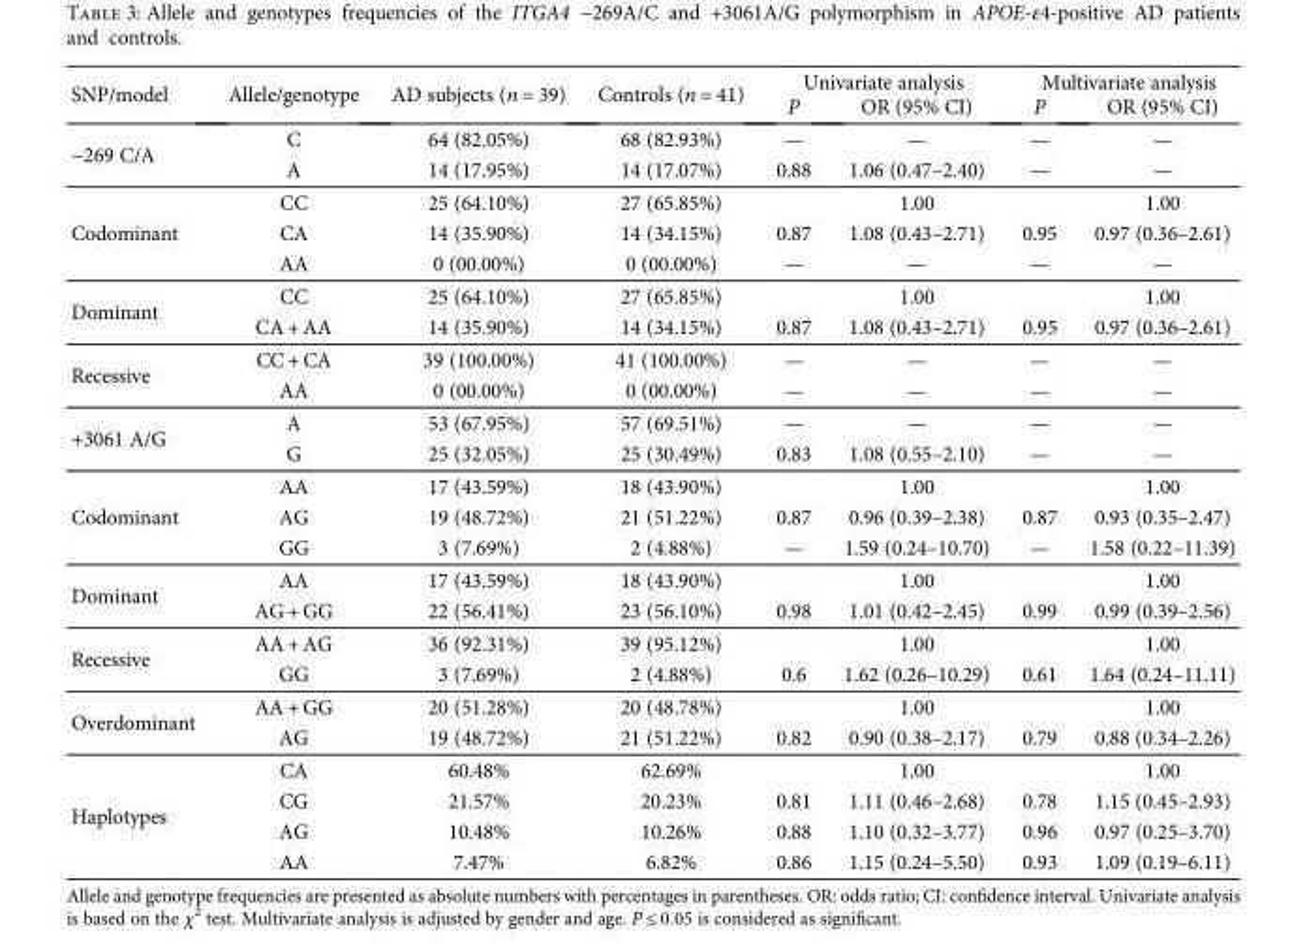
<table><thead><tr><td rowspan="2">SNP/model</td><td rowspan="2">Allele/genotype</td><td rowspan="2">AD subjects (n = 39)</td><td rowspan="2">Controls (n = 41)</td><td colspan="2">Univariate analysis</td><td colspan="2">Multivariate analysis</td></tr><tr><td>P</td><td>OR (95% CI)</td><td>P</td><td>OR (95% CI)</td></tr></thead><tbody><tr><td rowspan="2">−269 C/A</td><td>C</td><td>64 (82.05%)</td><td>68 (82.93%)</td><td>—</td><td>—</td><td>—</td><td>—</td></tr><tr><td>A</td><td>14 (17.95%)</td><td>14 (17.07%)</td><td>0.88</td><td>1.06 (0.47–2.40)</td><td>—</td><td>—</td></tr><tr><td rowspan="3">Codominant</td><td>CC</td><td>25 (64.10%)</td><td>27 (65.85%)</td><td></td><td>1.00</td><td></td><td>1.00</td></tr><tr><td>CA</td><td>14 (35.90%)</td><td>14 (34.15%)</td><td>0.87</td><td>1.08 (0.43–2.71)</td><td>0.95</td><td>0.97 (0.36–2.61)</td></tr><tr><td>AA</td><td>0 (00.00%)</td><td>0 (00.00%)</td><td>—</td><td>—</td><td>—</td><td>—</td></tr><tr><td rowspan="2">Dominant</td><td>CC</td><td>25 (64.10%)</td><td>27 (65.85%)</td><td></td><td>1.00</td><td></td><td>1.00</td></tr><tr><td>CA + AA</td><td>14 (35.90%)</td><td>14 (34.15%)</td><td>0.87</td><td>1.08 (0.43–2.71)</td><td>0.95</td><td>0.97 (0.36–2.61)</td></tr><tr><td rowspan="2">Recessive</td><td>CC + CA</td><td>39 (100.00%)</td><td>41 (100.00%)</td><td>—</td><td>—</td><td>—</td><td>—</td></tr><tr><td>AA</td><td>0 (00.00%)</td><td>0 (00.00%)</td><td>—</td><td>—</td><td>—</td><td>—</td></tr><tr><td rowspan="2">+3061 A/G</td><td>A</td><td>53 (67.95%)</td><td>57 (69.51%)</td><td>—</td><td>—</td><td>—</td><td>—</td></tr><tr><td>G</td><td>25 (32.05%)</td><td>25 (30.49%)</td><td>0.83</td><td>1.08 (0.55–2.10)</td><td>—</td><td>—</td></tr><tr><td rowspan="3">Codominant</td><td>AA</td><td>17 (43.59%)</td><td>18 (43.90%)</td><td></td><td>1.00</td><td></td><td>1.00</td></tr><tr><td>AG</td><td>19 (48.72%)</td><td>21 (51.22%)</td><td>0.87</td><td>0.96 (0.39–2.38)</td><td>0.87</td><td>0.93 (0.35–2.47)</td></tr><tr><td>GG</td><td>3 (7.69%)</td><td>2 (4.88%)</td><td>—</td><td>1.59 (0.24–10.70)</td><td>—</td><td>1.58 (0.22–11.39)</td></tr><tr><td rowspan="2">Dominant</td><td>AA</td><td>17 (43.59%)</td><td>18 (43.90%)</td><td></td><td>1.00</td><td></td><td>1.00</td></tr><tr><td>AG + GG</td><td>22 (56.41%)</td><td>23 (56.10%)</td><td>0.98</td><td>1.01 (0.42–2.45)</td><td>0.99</td><td>0.99 (0.39–2.56)</td></tr><tr><td rowspan="2">Recessive</td><td>AA + AG</td><td>36 (92.31%)</td><td>39 (95.12%)</td><td></td><td>1.00</td><td></td><td>1.00</td></tr><tr><td>GG</td><td>3 (7.69%)</td><td>2 (4.88%)</td><td>0.6</td><td>1.62 (0.26–10.29)</td><td>0.61</td><td>1.64 (0.24–11.11)</td></tr><tr><td rowspan="2">Overdominant</td><td>AA + GG</td><td>20 (51.28%)</td><td>20 (48.78%)</td><td></td><td>1.00</td><td></td><td>1.00</td></tr><tr><td>AG</td><td>19 (48.72%)</td><td>21 (51.22%)</td><td>0.82</td><td>0.90 (0.38–2.17)</td><td>0.79</td><td>0.88 (0.34–2.26)</td></tr><tr><td rowspan="4">Haplotypes</td><td>CA</td><td>60.48%</td><td>62.69%</td><td></td><td>1.00</td><td></td><td>1.00</td></tr><tr><td>CG</td><td>21.57%</td><td>20.23%</td><td>0.81</td><td>1.11 (0.46–2.68)</td><td>0.78</td><td>1.15 (0.45–2.93)</td></tr><tr><td>AG</td><td>10.48%</td><td>10.26%</td><td>0.88</td><td>1.10 (0.32–3.77)</td><td>0.96</td><td>0.97 (0.25–3.70)</td></tr><tr><td>AA</td><td>7.47%</td><td>6.82%</td><td>0.86</td><td>1.15 (0.24–5.50)</td><td>0.93</td><td>1.09 (0.19–6.11)</td></tr></tbody></table>